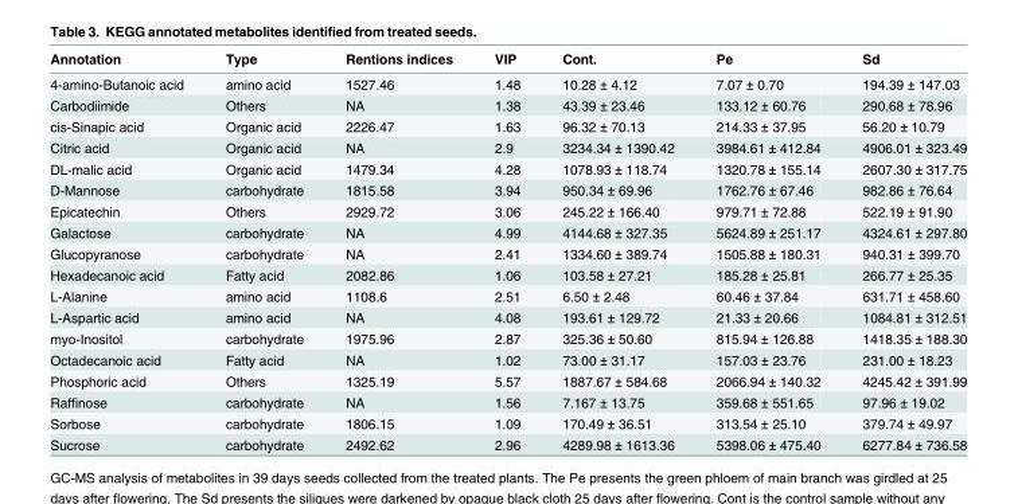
<table><thead><tr><td>Annotation</td><td>Type</td><td>Rentions indices</td><td>VIP</td><td>Cont.</td><td>Pe</td><td>Sd</td></tr></thead><tbody><tr><td>4-amino-Butanoic acid</td><td>amino acid</td><td>1527.46</td><td>1.48</td><td>10.28 ± 4.12</td><td>7.07 ± 0.70</td><td>194.39 ± 147.03</td></tr><tr><td>Carbodiimide</td><td>Others</td><td>NA</td><td>1.38</td><td>43.39 ± 23.46</td><td>133.12 ± 60.76</td><td>290.68 ± 78.96</td></tr><tr><td>cis-Sinapic acid</td><td>Organic acid</td><td>2226.47</td><td>1.63</td><td>96.32 ± 70.13</td><td>214.33 ± 37.95</td><td>56.20 ± 10.79</td></tr><tr><td>Citric acid</td><td>Organic acid</td><td>NA</td><td>2.9</td><td>3234.34 ± 1390.42</td><td>3984.61 ± 412.84</td><td>4906.01 ± 323.49</td></tr><tr><td>DL-malic acid</td><td>Organic acid</td><td>1479.34</td><td>4.28</td><td>1078.93 ± 118.74</td><td>1320.78 ± 155.14</td><td>2607.30 ± 317.75</td></tr><tr><td>D-Mannose</td><td>carbohydrate</td><td>1815.58</td><td>3.94</td><td>950.34 ± 69.96</td><td>1762.76 ± 67.46</td><td>982.86 ± 76.64</td></tr><tr><td>Epicatechin</td><td>Others</td><td>2929.72</td><td>3.06</td><td>245.22 ± 166.40</td><td>979.71 ± 72.88</td><td>522.19 ± 91.90</td></tr><tr><td>Galactose</td><td>carbohydrate</td><td>NA</td><td>4.99</td><td>4144.68 ± 327.35</td><td>5624.89 ± 251.17</td><td>4324.61 ± 297.80</td></tr><tr><td>Glucopyranose</td><td>carbohydrate</td><td>NA</td><td>2.41</td><td>1334.60 ± 389.74</td><td>1505.88 ± 180.31</td><td>940.31 ± 399.70</td></tr><tr><td>Hexadecanoic acid</td><td>Fatty acid</td><td>2082.86</td><td>1.06</td><td>103.58 ± 27.21</td><td>185.28 ± 25.81</td><td>266.77 ± 25.35</td></tr><tr><td>L-Alanine</td><td>amino acid</td><td>1108.6</td><td>2.51</td><td>6.50 ± 2.48</td><td>60.46 ± 37.84</td><td>631.71 ± 458.60</td></tr><tr><td>L-Aspartic acid</td><td>amino acid</td><td>NA</td><td>4.08</td><td>193.61 ± 129.72</td><td>21.33 ± 20.66</td><td>1084.81 ± 312.51</td></tr><tr><td>myo-Inositol</td><td>carbohydrate</td><td>1975.96</td><td>2.87</td><td>325.36 ± 50.60</td><td>815.94 ± 126.88</td><td>1418.35 ± 188.30</td></tr><tr><td>Octadecanoic acid</td><td>Fatty acid</td><td>NA</td><td>1.02</td><td>73.00 ± 31.17</td><td>157.03 ± 23.76</td><td>231.00 ± 18.23</td></tr><tr><td>Phosphoric acid</td><td>Others</td><td>1325.19</td><td>5.57</td><td>1887.67 ± 584.68</td><td>2066.94 ± 140.32</td><td>4245.42 ± 391.99</td></tr><tr><td>Raffinose</td><td>carbohydrate</td><td>NA</td><td>1.56</td><td>7.167 ± 13.75</td><td>359.68 ± 551.65</td><td>97.96 ± 19.02</td></tr><tr><td>Sorbose</td><td>carbohydrate</td><td>1806.15</td><td>1.09</td><td>170.49 ± 36.51</td><td>313.54 ± 25.10</td><td>379.74 ± 49.97</td></tr><tr><td>Sucrose</td><td>carbohydrate</td><td>2492.62</td><td>2.96</td><td>4289.98 ± 1613.36</td><td>5398.06 ± 475.40</td><td>6277.84 ± 736.58</td></tr></tbody></table>